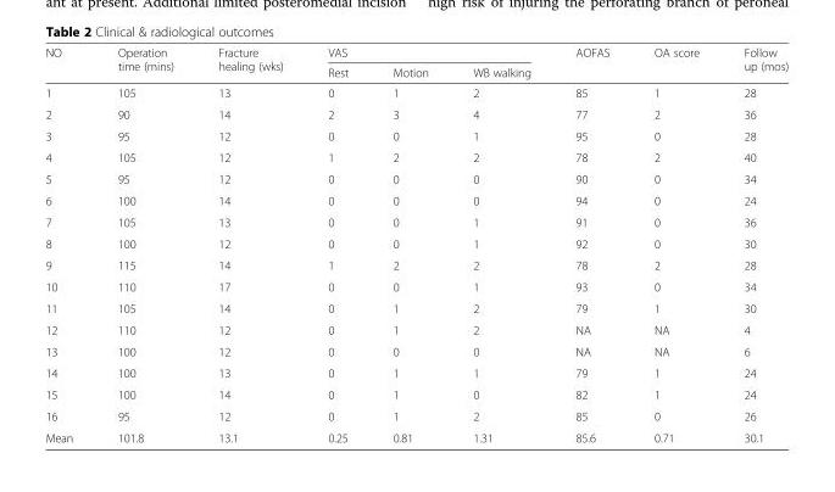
<table><thead><tr><td rowspan="2">NO</td><td rowspan="2">Operation time (mins)</td><td rowspan="2">Fracture healing (wks)</td><td colspan="3">VAS</td><td rowspan="2">AOFAS</td><td rowspan="2">OA score</td><td rowspan="2">Follow up (mos)</td></tr><tr><td>Rest</td><td>Motion</td><td>WB walking</td></tr></thead><tbody><tr><td>1</td><td>105</td><td>13</td><td>0</td><td>1</td><td>2</td><td>85</td><td>1</td><td>28</td></tr><tr><td>2</td><td>90</td><td>14</td><td>2</td><td>3</td><td>4</td><td>77</td><td>2</td><td>36</td></tr><tr><td>3</td><td>95</td><td>12</td><td>0</td><td>0</td><td>1</td><td>95</td><td>0</td><td>28</td></tr><tr><td>4</td><td>105</td><td>12</td><td>1</td><td>2</td><td>2</td><td>78</td><td>2</td><td>40</td></tr><tr><td>5</td><td>95</td><td>12</td><td>0</td><td>0</td><td>0</td><td>90</td><td>0</td><td>34</td></tr><tr><td>6</td><td>100</td><td>14</td><td>0</td><td>0</td><td>0</td><td>94</td><td>0</td><td>24</td></tr><tr><td>7</td><td>105</td><td>13</td><td>0</td><td>0</td><td>1</td><td>91</td><td>0</td><td>36</td></tr><tr><td>8</td><td>100</td><td>12</td><td>0</td><td>0</td><td>1</td><td>92</td><td>0</td><td>30</td></tr><tr><td>9</td><td>115</td><td>14</td><td>1</td><td>2</td><td>2</td><td>78</td><td>2</td><td>28</td></tr><tr><td>10</td><td>110</td><td>17</td><td>0</td><td>0</td><td>1</td><td>93</td><td>0</td><td>34</td></tr><tr><td>11</td><td>105</td><td>14</td><td>0</td><td>1</td><td>2</td><td>79</td><td>1</td><td>30</td></tr><tr><td>12</td><td>110</td><td>12</td><td>0</td><td>1</td><td>2</td><td>NA</td><td>NA</td><td>4</td></tr><tr><td>13</td><td>100</td><td>12</td><td>0</td><td>0</td><td>0</td><td>NA</td><td>NA</td><td>6</td></tr><tr><td>14</td><td>100</td><td>13</td><td>0</td><td>1</td><td>1</td><td>79</td><td>1</td><td>24</td></tr><tr><td>15</td><td>100</td><td>14</td><td>0</td><td>1</td><td>0</td><td>82</td><td>1</td><td>24</td></tr><tr><td>16</td><td>95</td><td>12</td><td>0</td><td>1</td><td>2</td><td>85</td><td>0</td><td>26</td></tr><tr><td>Mean</td><td>101.8</td><td>13.1</td><td>0.25</td><td>0.81</td><td>1.31</td><td>85.6</td><td>0.71</td><td>30.1</td></tr></tbody></table>